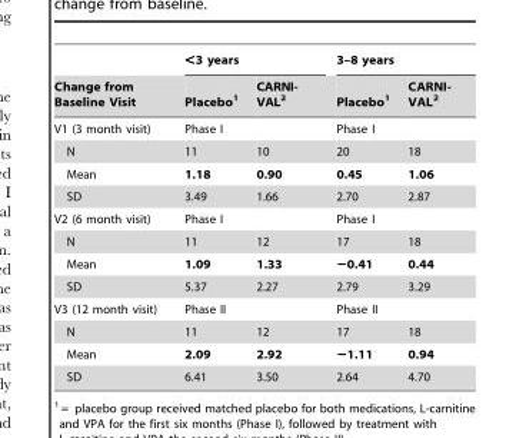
<table><thead><tr><td rowspan="2">Change from Baseline Visit</td><td colspan="2">&lt;3 years</td><td colspan="2">3–8 years</td></tr><tr><td>Placebo<sup>1</sup></td><td>CARNI- VAL<sup>2</sup></td><td>Placebo<sup>1</sup></td><td>CARNI- VAL<sup>2</sup></td></tr></thead><tbody><tr><td>V1 (3 month visit)</td><td>Phase I</td><td></td><td>Phase I</td><td></td></tr><tr><td>N</td><td>11</td><td>10</td><td>20</td><td>18</td></tr><tr><td>Mean</td><td>1.18</td><td>0.90</td><td>0.45</td><td>1.06</td></tr><tr><td>SD</td><td>3.49</td><td>1.66</td><td>2.70</td><td>2.87</td></tr><tr><td>V2 (6 month visit)</td><td>Phase I</td><td></td><td>Phase I</td><td></td></tr><tr><td>N</td><td>11</td><td>12</td><td>17</td><td>18</td></tr><tr><td>Mean</td><td>1.09</td><td>1.33</td><td>−0.41</td><td>0.44</td></tr><tr><td>SD</td><td>5.37</td><td>2.27</td><td>2.79</td><td>3.29</td></tr><tr><td>V3 (12 month visit)</td><td>Phase II</td><td></td><td>Phase II</td><td></td></tr><tr><td>N</td><td>11</td><td>12</td><td>17</td><td>18</td></tr><tr><td>Mean</td><td>2.09</td><td>2.92</td><td>−1.11</td><td>0.94</td></tr><tr><td>SD</td><td>6.41</td><td>3.50</td><td>2.64</td><td>4.70</td></tr></tbody></table>